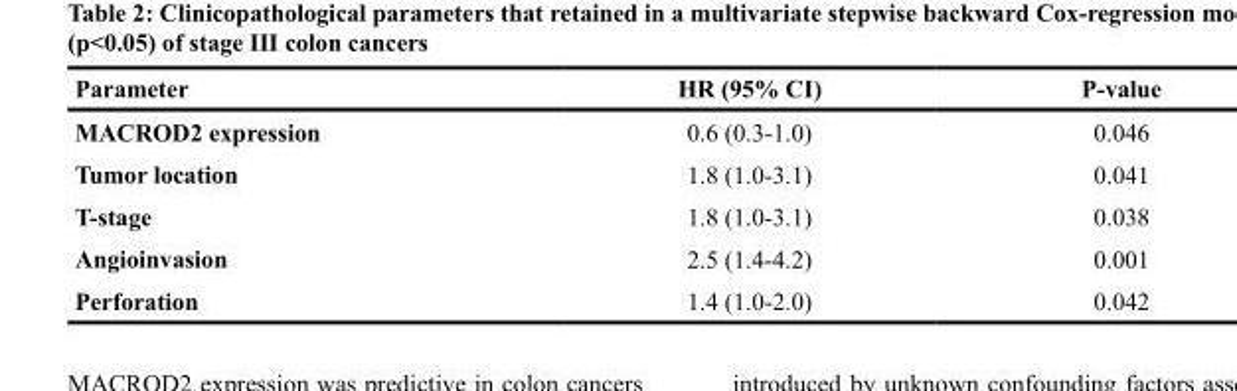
<table><thead><tr><td>Parameter</td><td>HR (95% CI)</td><td>P-value</td></tr></thead><tbody><tr><td>MACROD2 expression</td><td>0.6 (0.3-1.0)</td><td>0.046</td></tr><tr><td>Tumor location</td><td>1.8 (1.0-3.1)</td><td>0.041</td></tr><tr><td>T-stage</td><td>1.8 (1.0-3.1)</td><td>0.038</td></tr><tr><td>Angioinvasion</td><td>2.5 (1.4-4.2)</td><td>0.001</td></tr><tr><td>Perforation</td><td>1.4 (1.0-2.0)</td><td>0.042</td></tr></tbody></table>